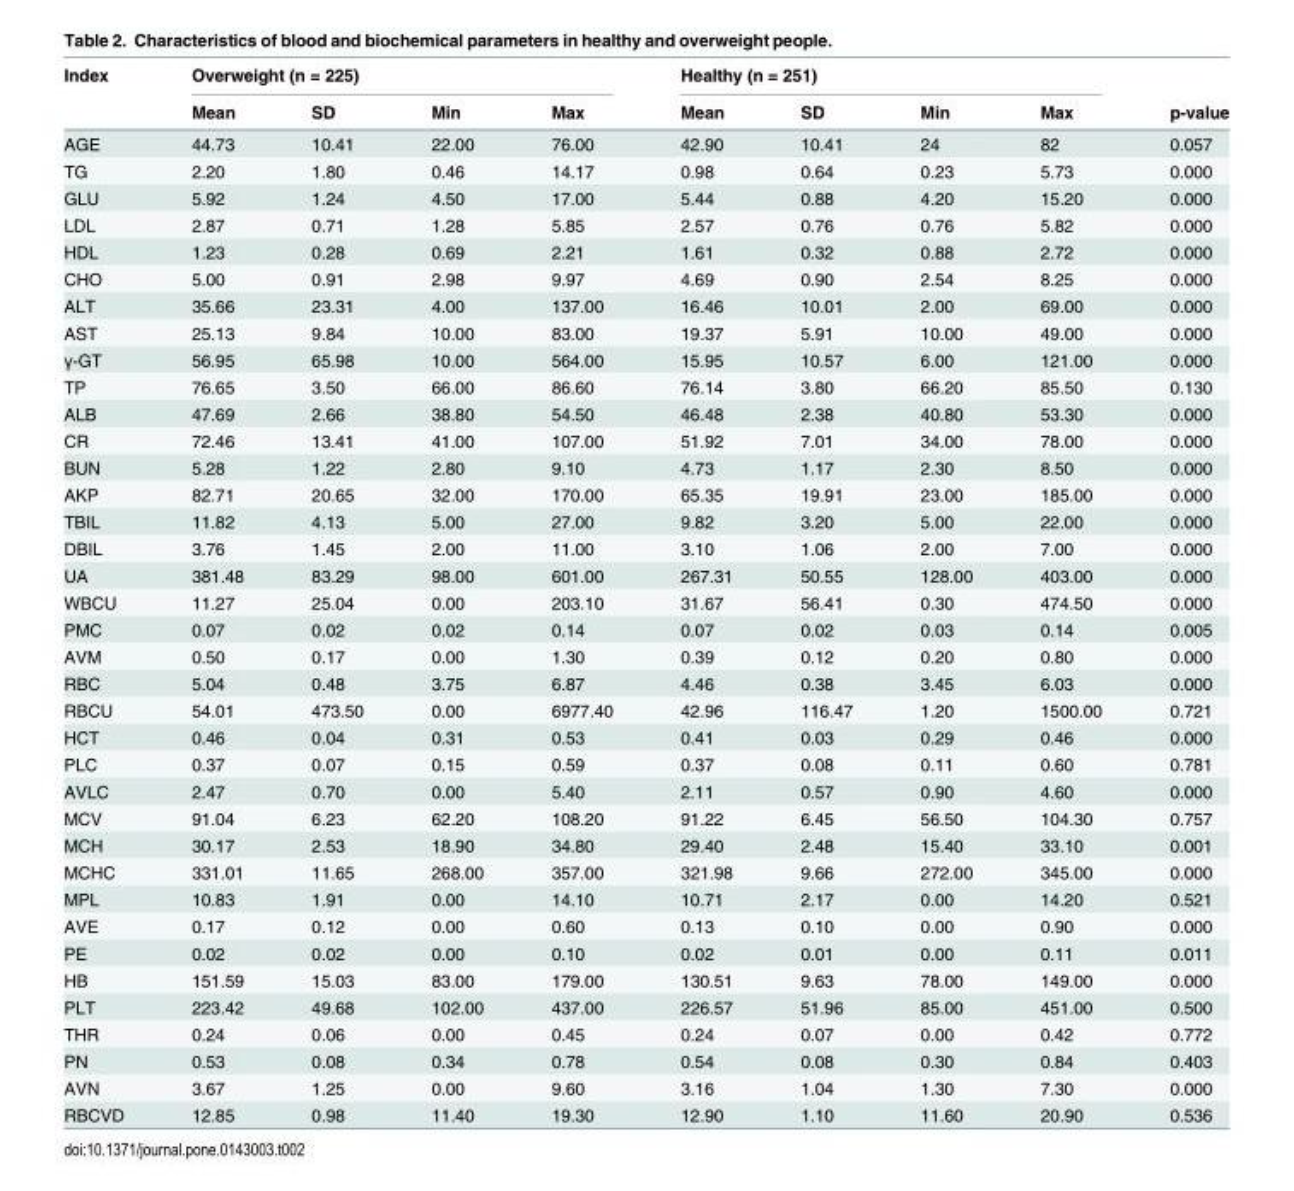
<table><thead><tr><td rowspan="2">Index</td><td colspan="4">Overweight (n = 225)</td><td colspan="4">Healthy (n = 251)</td><td rowspan="2">p-value</td></tr><tr><td>Mean</td><td>SD</td><td>Min</td><td>Max</td><td>Mean</td><td>SD</td><td>Min</td><td>Max</td></tr></thead><tbody><tr><td>AGE</td><td>44.73</td><td>10.41</td><td>22.00</td><td>76.00</td><td>42.90</td><td>10.41</td><td>24</td><td>82</td><td>0.057</td></tr><tr><td>TG</td><td>2.20</td><td>1.80</td><td>0.46</td><td>14.17</td><td>0.98</td><td>0.64</td><td>0.23</td><td>5.73</td><td>0.000</td></tr><tr><td>GLU</td><td>5.92</td><td>1.24</td><td>4.50</td><td>17.00</td><td>5.44</td><td>0.88</td><td>4.20</td><td>15.20</td><td>0.000</td></tr><tr><td>LDL</td><td>2.87</td><td>0.71</td><td>1.28</td><td>5.85</td><td>2.57</td><td>0.76</td><td>0.76</td><td>5.82</td><td>0.000</td></tr><tr><td>HDL</td><td>1.23</td><td>0.28</td><td>0.69</td><td>2.21</td><td>1.61</td><td>0.32</td><td>0.88</td><td>2.72</td><td>0.000</td></tr><tr><td>CHO</td><td>5.00</td><td>0.91</td><td>2.98</td><td>9.97</td><td>4.69</td><td>0.90</td><td>2.54</td><td>8.25</td><td>0.000</td></tr><tr><td>ALT</td><td>35.66</td><td>23.31</td><td>4.00</td><td>137.00</td><td>16.46</td><td>10.01</td><td>2.00</td><td>69.00</td><td>0.000</td></tr><tr><td>AST</td><td>25.13</td><td>9.84</td><td>10.00</td><td>83.00</td><td>19.37</td><td>5.91</td><td>10.00</td><td>49.00</td><td>0.000</td></tr><tr><td>γ-GT</td><td>56.95</td><td>65.98</td><td>10.00</td><td>564.00</td><td>15.95</td><td>10.57</td><td>6.00</td><td>121.00</td><td>0.000</td></tr><tr><td>TP</td><td>76.65</td><td>3.50</td><td>66.00</td><td>86.60</td><td>76.14</td><td>3.80</td><td>66.20</td><td>85.50</td><td>0.130</td></tr><tr><td>ALB</td><td>47.69</td><td>2.66</td><td>38.80</td><td>54.50</td><td>46.48</td><td>2.38</td><td>40.80</td><td>53.30</td><td>0.000</td></tr><tr><td>CR</td><td>72.46</td><td>13.41</td><td>41.00</td><td>107.00</td><td>51.92</td><td>7.01</td><td>34.00</td><td>78.00</td><td>0.000</td></tr><tr><td>BUN</td><td>5.28</td><td>1.22</td><td>2.80</td><td>9.10</td><td>4.73</td><td>1.17</td><td>2.30</td><td>8.50</td><td>0.000</td></tr><tr><td>AKP</td><td>82.71</td><td>20.65</td><td>32.00</td><td>170.00</td><td>65.35</td><td>19.91</td><td>23.00</td><td>185.00</td><td>0.000</td></tr><tr><td>TBIL</td><td>11.82</td><td>4.13</td><td>5.00</td><td>27.00</td><td>9.82</td><td>3.20</td><td>5.00</td><td>22.00</td><td>0.000</td></tr><tr><td>DBIL</td><td>3.76</td><td>1.45</td><td>2.00</td><td>11.00</td><td>3.10</td><td>1.06</td><td>2.00</td><td>7.00</td><td>0.000</td></tr><tr><td>UA</td><td>381.48</td><td>83.29</td><td>98.00</td><td>601.00</td><td>267.31</td><td>50.55</td><td>128.00</td><td>403.00</td><td>0.000</td></tr><tr><td>WBCU</td><td>11.27</td><td>25.04</td><td>0.00</td><td>203.10</td><td>31.67</td><td>56.41</td><td>0.30</td><td>474.50</td><td>0.000</td></tr><tr><td>PMC</td><td>0.07</td><td>0.02</td><td>0.02</td><td>0.14</td><td>0.07</td><td>0.02</td><td>0.03</td><td>0.14</td><td>0.005</td></tr><tr><td>AVM</td><td>0.50</td><td>0.17</td><td>0.00</td><td>1.30</td><td>0.39</td><td>0.12</td><td>0.20</td><td>0.80</td><td>0.000</td></tr><tr><td>RBC</td><td>5.04</td><td>0.48</td><td>3.75</td><td>6.87</td><td>4.46</td><td>0.38</td><td>3.45</td><td>6.03</td><td>0.000</td></tr><tr><td>RBCU</td><td>54.01</td><td>473.50</td><td>0.00</td><td>6977.40</td><td>42.96</td><td>116.47</td><td>1.20</td><td>1500.00</td><td>0.721</td></tr><tr><td>HCT</td><td>0.46</td><td>0.04</td><td>0.31</td><td>0.53</td><td>0.41</td><td>0.03</td><td>0.29</td><td>0.46</td><td>0.000</td></tr><tr><td>PLC</td><td>0.37</td><td>0.07</td><td>0.15</td><td>0.59</td><td>0.37</td><td>0.08</td><td>0.11</td><td>0.60</td><td>0.781</td></tr><tr><td>AVLC</td><td>2.47</td><td>0.70</td><td>0.00</td><td>5.40</td><td>2.11</td><td>0.57</td><td>0.90</td><td>4.60</td><td>0.000</td></tr><tr><td>MCV</td><td>91.04</td><td>6.23</td><td>62.20</td><td>108.20</td><td>91.22</td><td>6.45</td><td>56.50</td><td>104.30</td><td>0.757</td></tr><tr><td>MCH</td><td>30.17</td><td>2.53</td><td>18.90</td><td>34.80</td><td>29.40</td><td>2.48</td><td>15.40</td><td>33.10</td><td>0.001</td></tr><tr><td>MCHC</td><td>331.01</td><td>11.65</td><td>268.00</td><td>357.00</td><td>321.98</td><td>9.66</td><td>272.00</td><td>345.00</td><td>0.000</td></tr><tr><td>MPL</td><td>10.83</td><td>1.91</td><td>0.00</td><td>14.10</td><td>10.71</td><td>2.17</td><td>0.00</td><td>14.20</td><td>0.521</td></tr><tr><td>AVE</td><td>0.17</td><td>0.12</td><td>0.00</td><td>0.60</td><td>0.13</td><td>0.10</td><td>0.00</td><td>0.90</td><td>0.000</td></tr><tr><td>PE</td><td>0.02</td><td>0.02</td><td>0.00</td><td>0.10</td><td>0.02</td><td>0.01</td><td>0.00</td><td>0.11</td><td>0.011</td></tr><tr><td>HB</td><td>151.59</td><td>15.03</td><td>83.00</td><td>179.00</td><td>130.51</td><td>9.63</td><td>78.00</td><td>149.00</td><td>0.000</td></tr><tr><td>PLT</td><td>223.42</td><td>49.68</td><td>102.00</td><td>437.00</td><td>226.57</td><td>51.96</td><td>85.00</td><td>451.00</td><td>0.500</td></tr><tr><td>THR</td><td>0.24</td><td>0.06</td><td>0.00</td><td>0.45</td><td>0.24</td><td>0.07</td><td>0.00</td><td>0.42</td><td>0.772</td></tr><tr><td>PN</td><td>0.53</td><td>0.08</td><td>0.34</td><td>0.78</td><td>0.54</td><td>0.08</td><td>0.30</td><td>0.84</td><td>0.403</td></tr><tr><td>AVN</td><td>3.67</td><td>1.25</td><td>0.00</td><td>9.60</td><td>3.16</td><td>1.04</td><td>1.30</td><td>7.30</td><td>0.000</td></tr><tr><td>RBCVD</td><td>12.85</td><td>0.98</td><td>11.40</td><td>19.30</td><td>12.90</td><td>1.10</td><td>11.60</td><td>20.90</td><td>0.536</td></tr></tbody></table>